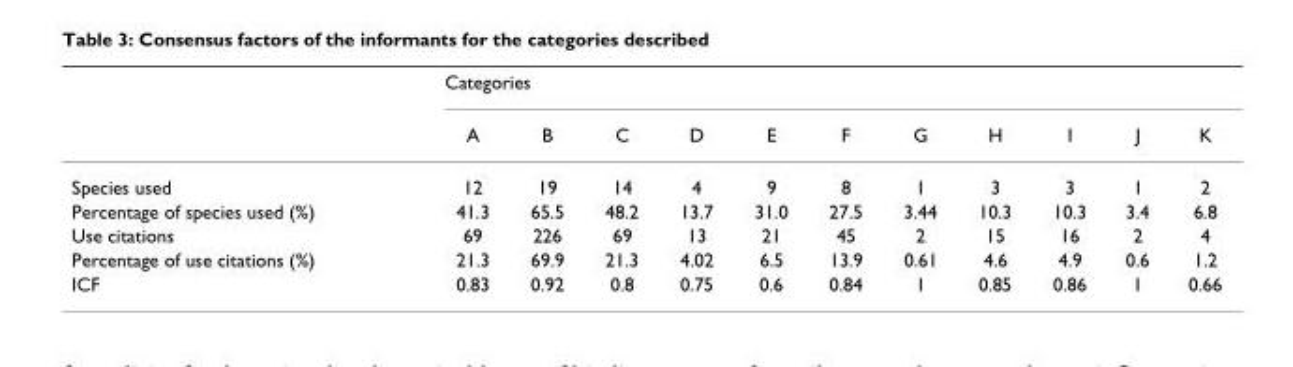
<table><thead><tr><td rowspan="2"></td><td colspan="11">Categories</td></tr><tr><td>A</td><td>B</td><td>C</td><td>D</td><td>E</td><td>F</td><td>G</td><td>H</td><td>I</td><td>J</td><td>K</td></tr></thead><tbody><tr><td>Species used</td><td>12</td><td>19</td><td>14</td><td>4</td><td>9</td><td>8</td><td>1</td><td>3</td><td>3</td><td>1</td><td>2</td></tr><tr><td>Percentage of species used (%)</td><td>41.3</td><td>65.5</td><td>48.2</td><td>13.7</td><td>31.0</td><td>27.5</td><td>3.44</td><td>10.3</td><td>10.3</td><td>3.4</td><td>6.8</td></tr><tr><td>Use citations</td><td>69</td><td>226</td><td>69</td><td>13</td><td>21</td><td>45</td><td>2</td><td>15</td><td>16</td><td>2</td><td>4</td></tr><tr><td>Percentage of use citations (%)</td><td>21.3</td><td>69.9</td><td>21.3</td><td>4.02</td><td>6.5</td><td>13.9</td><td>0.61</td><td>4.6</td><td>4.9</td><td>0.6</td><td>1.2</td></tr><tr><td>ICF</td><td>0.83</td><td>0.92</td><td>0.8</td><td>0.75</td><td>0.6</td><td>0.84</td><td>1</td><td>0.85</td><td>0.86</td><td>1</td><td>0.66</td></tr></tbody></table>